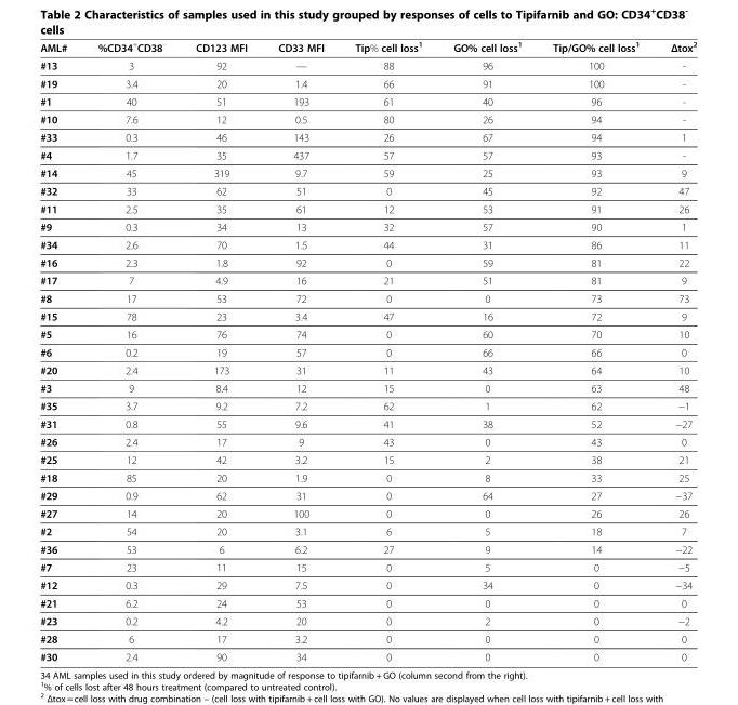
<table><thead><tr><td>AML#</td><td>%CD34<sup>+</sup>CD38<sup>-</sup></td><td>CD123 MFI</td><td>CD33 MFI</td><td>Tip% cell loss<sup>1</sup></td><td>GO% cell loss<sup>1</sup></td><td>Tip/GO% cell loss<sup>1</sup></td><td>Δtox<sup>2</sup></td></tr></thead><tbody><tr><td>#13</td><td>3</td><td>92</td><td>—</td><td>88</td><td>96</td><td>100</td><td>-</td></tr><tr><td>#19</td><td>3.4</td><td>20</td><td>1.4</td><td>66</td><td>91</td><td>100</td><td>-</td></tr><tr><td>#1</td><td>40</td><td>51</td><td>193</td><td>61</td><td>40</td><td>96</td><td>-</td></tr><tr><td>#10</td><td>7.6</td><td>12</td><td>0.5</td><td>80</td><td>26</td><td>94</td><td>-</td></tr><tr><td>#33</td><td>0.3</td><td>46</td><td>143</td><td>26</td><td>67</td><td>94</td><td>1</td></tr><tr><td>#4</td><td>1.7</td><td>35</td><td>437</td><td>57</td><td>57</td><td>93</td><td>-</td></tr><tr><td>#14</td><td>45</td><td>319</td><td>9.7</td><td>59</td><td>25</td><td>93</td><td>9</td></tr><tr><td>#32</td><td>33</td><td>62</td><td>51</td><td>0</td><td>45</td><td>92</td><td>47</td></tr><tr><td>#11</td><td>2.5</td><td>35</td><td>61</td><td>12</td><td>53</td><td>91</td><td>26</td></tr><tr><td>#9</td><td>0.3</td><td>34</td><td>13</td><td>32</td><td>57</td><td>90</td><td>1</td></tr><tr><td>#34</td><td>2.6</td><td>70</td><td>1.5</td><td>44</td><td>31</td><td>86</td><td>11</td></tr><tr><td>#16</td><td>2.3</td><td>1.8</td><td>92</td><td>0</td><td>59</td><td>81</td><td>22</td></tr><tr><td>#17</td><td>7</td><td>4.9</td><td>16</td><td>21</td><td>51</td><td>81</td><td>9</td></tr><tr><td>#8</td><td>17</td><td>53</td><td>72</td><td>0</td><td>0</td><td>73</td><td>73</td></tr><tr><td>#15</td><td>78</td><td>23</td><td>3.4</td><td>47</td><td>16</td><td>72</td><td>9</td></tr><tr><td>#5</td><td>16</td><td>76</td><td>74</td><td>0</td><td>60</td><td>70</td><td>10</td></tr><tr><td>#6</td><td>0.2</td><td>19</td><td>57</td><td>0</td><td>66</td><td>66</td><td>0</td></tr><tr><td>#20</td><td>2.4</td><td>173</td><td>31</td><td>11</td><td>43</td><td>64</td><td>10</td></tr><tr><td>#3</td><td>9</td><td>8.4</td><td>12</td><td>15</td><td>0</td><td>63</td><td>48</td></tr><tr><td>#35</td><td>3.7</td><td>9.2</td><td>7.2</td><td>62</td><td>1</td><td>62</td><td>−1</td></tr><tr><td>#31</td><td>0.8</td><td>55</td><td>9.6</td><td>41</td><td>38</td><td>52</td><td>−27</td></tr><tr><td>#26</td><td>2.4</td><td>17</td><td>9</td><td>43</td><td>0</td><td>43</td><td>0</td></tr><tr><td>#25</td><td>12</td><td>42</td><td>3.2</td><td>15</td><td>2</td><td>38</td><td>21</td></tr><tr><td>#18</td><td>85</td><td>20</td><td>1.9</td><td>0</td><td>8</td><td>33</td><td>25</td></tr><tr><td>#29</td><td>0.9</td><td>62</td><td>31</td><td>0</td><td>64</td><td>27</td><td>−37</td></tr><tr><td>#27</td><td>14</td><td>20</td><td>100</td><td>0</td><td>0</td><td>26</td><td>26</td></tr><tr><td>#2</td><td>54</td><td>20</td><td>3.1</td><td>6</td><td>5</td><td>18</td><td>7</td></tr><tr><td>#36</td><td>53</td><td>6</td><td>6.2</td><td>27</td><td>9</td><td>14</td><td>−22</td></tr><tr><td>#7</td><td>23</td><td>11</td><td>15</td><td>0</td><td>5</td><td>0</td><td>−5</td></tr><tr><td>#12</td><td>0.3</td><td>29</td><td>7.5</td><td>0</td><td>34</td><td>0</td><td>−34</td></tr><tr><td>#21</td><td>6.2</td><td>24</td><td>53</td><td>0</td><td>0</td><td>0</td><td>0</td></tr><tr><td>#23</td><td>0.2</td><td>4.2</td><td>20</td><td>0</td><td>2</td><td>0</td><td>−2</td></tr><tr><td>#28</td><td>6</td><td>17</td><td>3.2</td><td>0</td><td>0</td><td>0</td><td>0</td></tr><tr><td>#30</td><td>2.4</td><td>90</td><td>34</td><td>0</td><td>0</td><td>0</td><td>0</td></tr></tbody></table>